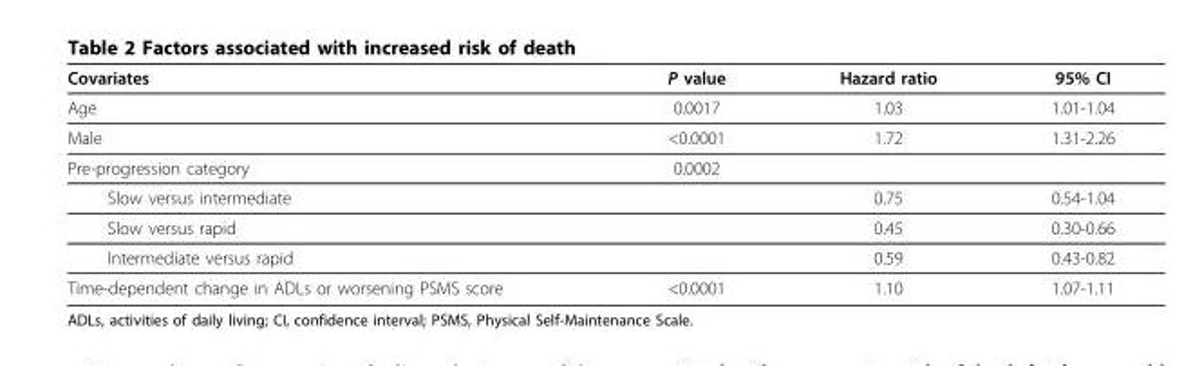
<table><thead><tr><td>Covariates</td><td>P value</td><td>Hazard ratio</td><td>95% CI</td></tr></thead><tbody><tr><td>Age</td><td>0.0017</td><td>1.03</td><td>1.01-1.04</td></tr><tr><td>Male</td><td>&lt;0.0001</td><td>1.72</td><td>1.31-2.26</td></tr><tr><td>Pre-progression category</td><td>0.0002</td><td></td><td></td></tr><tr><td>Slow versus intermediate</td><td></td><td>0.75</td><td>0.54-1.04</td></tr><tr><td>Slow versus rapid</td><td></td><td>0.45</td><td>0.30-0.66</td></tr><tr><td>Intermediate versus rapid</td><td></td><td>0.59</td><td>0.43-0.82</td></tr><tr><td>Time-dependent change in ADLs or worsening PSMS score</td><td>&lt;0.0001</td><td>1.10</td><td>1.07-1.11</td></tr></tbody></table>